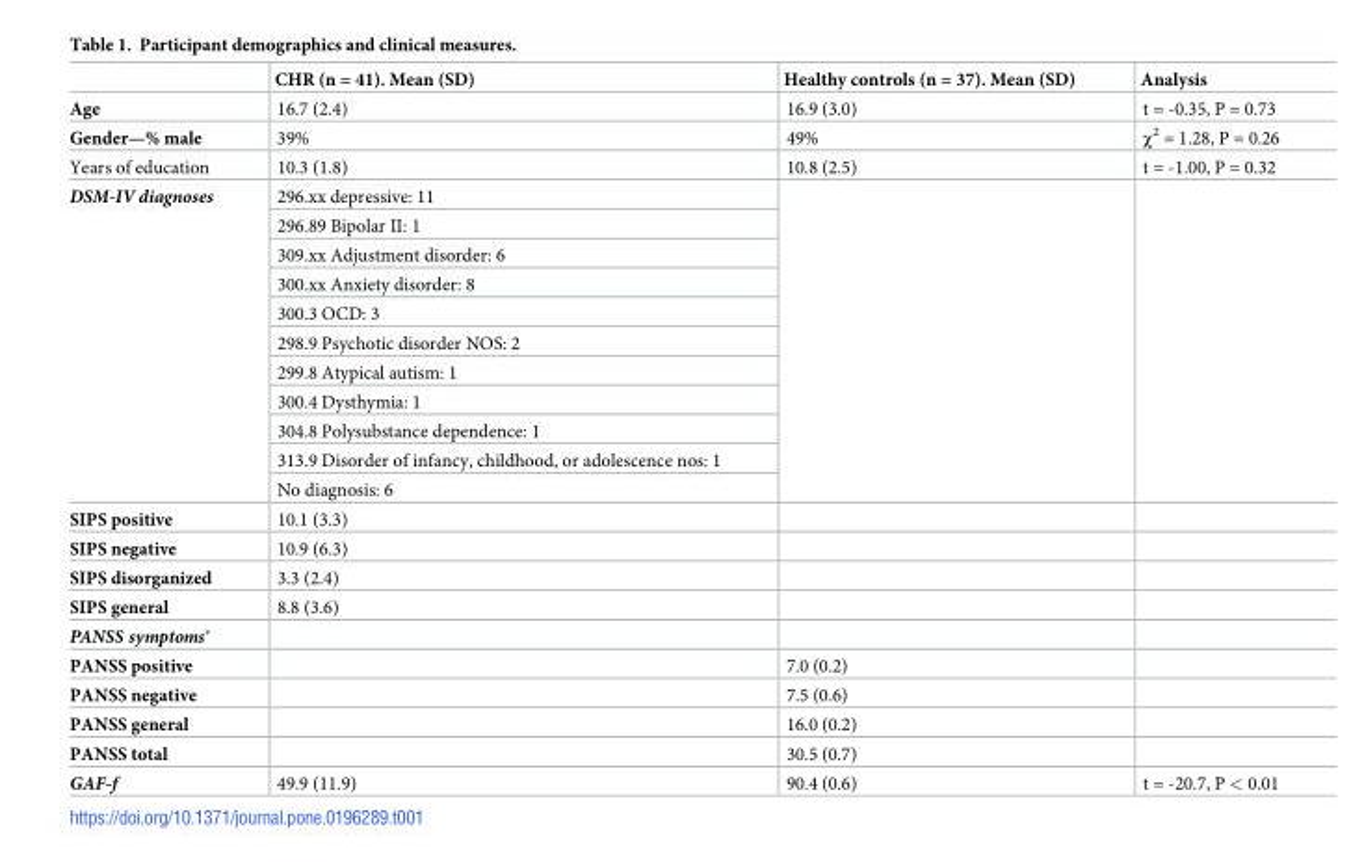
<table><thead><tr><td></td><td>CHR (n = 41). Mean (SD)</td><td>Healthy controls (n = 37). Mean (SD)</td><td>Analysis</td></tr></thead><tbody><tr><td>Age</td><td>16.7 (2.4)</td><td>16.9 (3.0)</td><td>t = -0.35, P = 0.73</td></tr><tr><td>Gender—% male</td><td>39%</td><td>49%</td><td>χ<sup>2</sup> = 1.28, P = 0.26</td></tr><tr><td>Years of education</td><td>10.3 (1.8)</td><td>10.8 (2.5)</td><td>t = -1.00, P = 0.32</td></tr><tr><td rowspan="11">DSM-IV diagnoses</td><td>296.xx depressive: 11</td><td rowspan="11"></td><td rowspan="11"></td></tr><tr><td>296.89 Bipolar II: 1</td></tr><tr><td>309.xx Adjustment disorder: 6</td></tr><tr><td>300.xx Anxiety disorder: 8</td></tr><tr><td>300.3 OCD: 3</td></tr><tr><td>298.9 Psychotic disorder NOS: 2</td></tr><tr><td>299.8 Atypical autism: 1</td></tr><tr><td>300.4 Dysthymia: 1</td></tr><tr><td>304.8 Polysubstance dependence: 1</td></tr><tr><td>313.9 Disorder of infancy, childhood, or adolescence nos: 1</td></tr><tr><td>No diagnosis: 6</td></tr><tr><td>SIPS positive</td><td>10.1 (3.3)</td><td></td><td></td></tr><tr><td>SIPS negative</td><td>10.9 (6.3)</td><td></td><td></td></tr><tr><td>SIPS disorganized</td><td>3.3 (2.4)</td><td></td><td></td></tr><tr><td>SIPS general</td><td>8.8 (3.6)</td><td></td><td></td></tr><tr><td colspan="4">PANSS symptoms*</td></tr><tr><td>PANSS positive</td><td></td><td>7.0 (0.2)</td><td></td></tr><tr><td>PANSS negative</td><td></td><td>7.5 (0.6)</td><td></td></tr><tr><td>PANSS general</td><td></td><td>16.0 (0.2)</td><td></td></tr><tr><td>PANSS total</td><td></td><td>30.5 (0.7)</td><td></td></tr><tr><td>GAF-f</td><td>49.9 (11.9)</td><td>90.4 (0.6)</td><td>t = -20.7, P &lt; 0.01</td></tr></tbody></table>